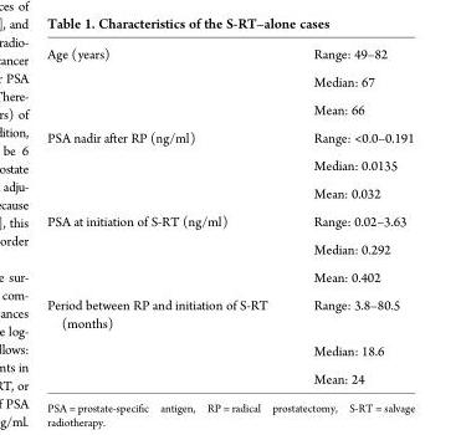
<table><tbody><tr><td rowspan="3">Age (years)</td><td>Range: 49–82</td></tr><tr><td>Median: 67</td></tr><tr><td>Mean: 66</td></tr><tr><td rowspan="3">PSA nadir after RP (ng/ml)</td><td>Range: &lt;0.0–0.191</td></tr><tr><td>Median: 0.0135</td></tr><tr><td>Mean: 0.032</td></tr><tr><td rowspan="3">PSA at initiation of S-RT (ng/ml)</td><td>Range: 0.02–3.63</td></tr><tr><td>Median: 0.292</td></tr><tr><td>Mean: 0.402</td></tr><tr><td rowspan="3">Period between RP and initiation of S-RT (months)</td><td>Range: 3.8–80.5</td></tr><tr><td>Median: 18.6</td></tr><tr><td>Mean: 24</td></tr></tbody></table>